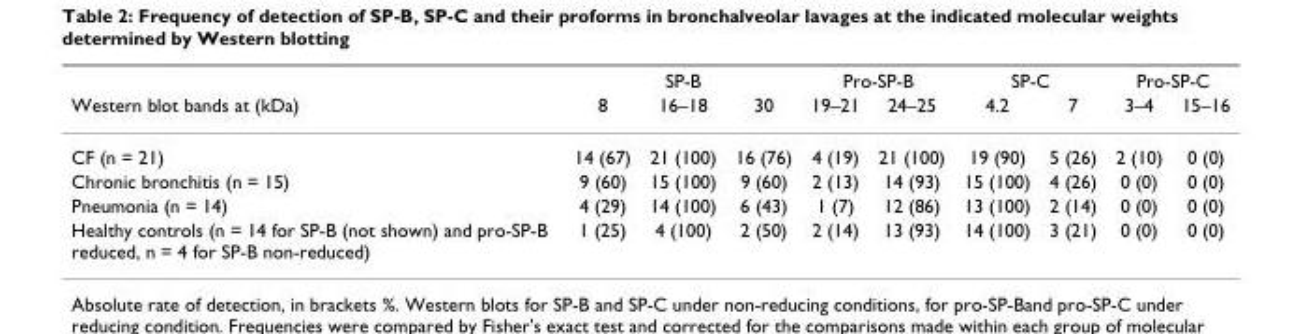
<table><thead><tr><td rowspan="2">Western blot bands at (kDa)</td><td colspan="3">SP-B</td><td colspan="2">Pro-SP-B</td><td colspan="2">SP-C</td><td colspan="2">Pro-SP-C</td></tr><tr><td>8</td><td>16–18</td><td>30</td><td>19–21</td><td>24–25</td><td>4.2</td><td>7</td><td>3–4</td><td>15–16</td></tr></thead><tbody><tr><td>CF (n = 21)</td><td>14 (67)</td><td>21 (100)</td><td>16 (76)</td><td>4 (19)</td><td>21 (100)</td><td>19 (90)</td><td>5 (26)</td><td>2 (10)</td><td>0 (0)</td></tr><tr><td>Chronic bronchitis (n = 15)</td><td>9 (60)</td><td>15 (100)</td><td>9 (60)</td><td>2 (13)</td><td>14 (93)</td><td>15 (100)</td><td>4 (26)</td><td>0 (0)</td><td>0 (0)</td></tr><tr><td>Pneumonia (n = 14)</td><td>4 (29)</td><td>14 (100)</td><td>6 (43)</td><td>1 (7)</td><td>12 (86)</td><td>13 (100)</td><td>2 (14)</td><td>0 (0)</td><td>0 (0)</td></tr><tr><td>Healthy controls (n = 14 for SP-B (not shown) and pro-SP-B reduced, n = 4 for SP-B non-reduced)</td><td>1 (25)</td><td>4 (100)</td><td>2 (50)</td><td>2 (14)</td><td>13 (93)</td><td>14 (100)</td><td>3 (21)</td><td>0 (0)</td><td>0 (0)</td></tr></tbody></table>